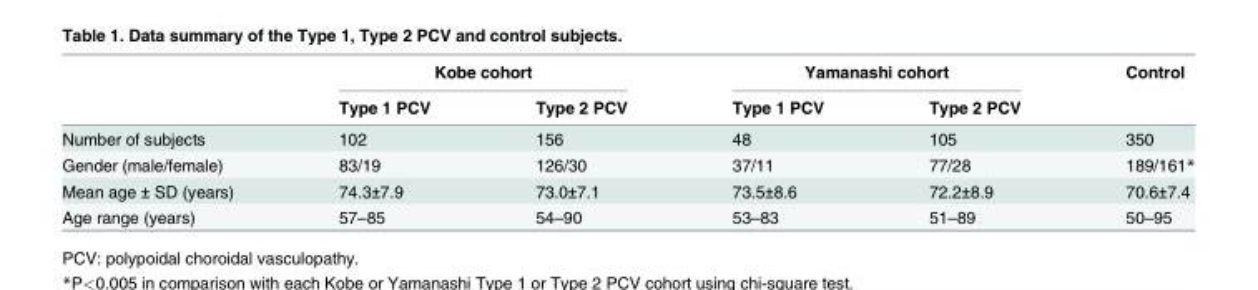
<table><thead><tr><td rowspan="2"></td><td colspan="2">Kobe cohort</td><td colspan="2">Yamanashi cohort</td><td rowspan="2">Control</td></tr><tr><td>Type 1 PCV</td><td>Type 2 PCV</td><td>Type 1 PCV</td><td>Type 2 PCV</td></tr></thead><tbody><tr><td>Number of subjects</td><td>102</td><td>156</td><td>48</td><td>105</td><td>350</td></tr><tr><td>Gender (male/female)</td><td>83/19</td><td>126/30</td><td>37/11</td><td>77/28</td><td>189/161*</td></tr><tr><td>Mean age ± SD (years)</td><td>74.3±7.9</td><td>73.0±7.1</td><td>73.5±8.6</td><td>72.2±8.9</td><td>70.6±7.4</td></tr><tr><td>Age range (years)</td><td>57–85</td><td>54–90</td><td>53–83</td><td>51–89</td><td>50–95</td></tr></tbody></table>